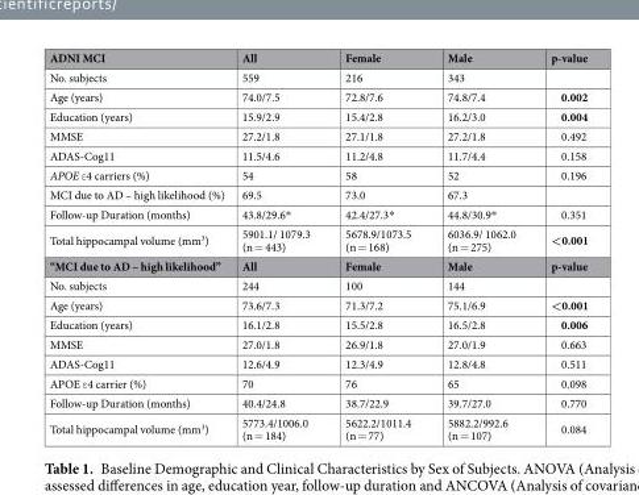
<table><thead><tr><td>ADNI MCI</td><td>All</td><td>Female</td><td>Male</td><td>p-value</td></tr></thead><tbody><tr><td>No. subjects</td><td>559</td><td>216</td><td>343</td><td></td></tr><tr><td>Age (years)</td><td>74.0/7.5</td><td>72.8/7.6</td><td>74.8/7.4</td><td>0.002</td></tr><tr><td>Education (years)</td><td>15.9/2.9</td><td>15.4/2.8</td><td>16.2/3.0</td><td>0.004</td></tr><tr><td>MMSE</td><td>27.2/1.8</td><td>27.1/1.8</td><td>27.2/1.8</td><td>0.492</td></tr><tr><td>ADAS-Cog11</td><td>11.5/4.6</td><td>11.2/4.8</td><td>11.7/4.4</td><td>0.158</td></tr><tr><td>APOE ε4 carriers (%)</td><td>54</td><td>58</td><td>52</td><td>0.196</td></tr><tr><td>MCI due to AD – high likelihood (%)</td><td>69.5</td><td>73.0</td><td>67.3</td><td></td></tr><tr><td>Follow-up Duration (months)</td><td>43.8/29.6*</td><td>42.4/27.3*</td><td>44.8/30.9*</td><td>0.351</td></tr><tr><td>Total hippocampal volume (mm<sup>3</sup>)</td><td>5901.1/ 1079.3 (n = 443)</td><td>5678.9/1073.5 (n = 168)</td><td>6036.9/ 1062.0 (n = 275)</td><td>&lt;0.001</td></tr><tr><td>“MCI due to AD – high likelihood”</td><td>All</td><td>Female</td><td>Male</td><td>p-value</td></tr><tr><td>No. subjects</td><td>244</td><td>100</td><td>144</td><td></td></tr><tr><td>Age (years)</td><td>73.6/7.3</td><td>71.3/7.2</td><td>75.1/6.9</td><td>&lt;0.001</td></tr><tr><td>Education (years)</td><td>16.1/2.8</td><td>15.5/2.8</td><td>16.5/2.8</td><td>0.006</td></tr><tr><td>MMSE</td><td>27.0/1.8</td><td>26.9/1.8</td><td>27.0/1.9</td><td>0.663</td></tr><tr><td>ADAS-Cog11</td><td>12.6/4.9</td><td>12.3/4.9</td><td>12.8/4.8</td><td>0.511</td></tr><tr><td>APOE ε4 carrier (%)</td><td>70</td><td>76</td><td>65</td><td>0.098</td></tr><tr><td>Follow-up Duration (months)</td><td>40.4/24.8</td><td>38.7/22.9</td><td>39.7/27.0</td><td>0.770</td></tr><tr><td>Total hippocampal volume (mm<sup>3</sup>)</td><td>5773.4/1006.0 (n = 184)</td><td>5622.2/1011.4 (n = 77)</td><td>5882.2/992.6 (n = 107)</td><td>0.084</td></tr></tbody></table>